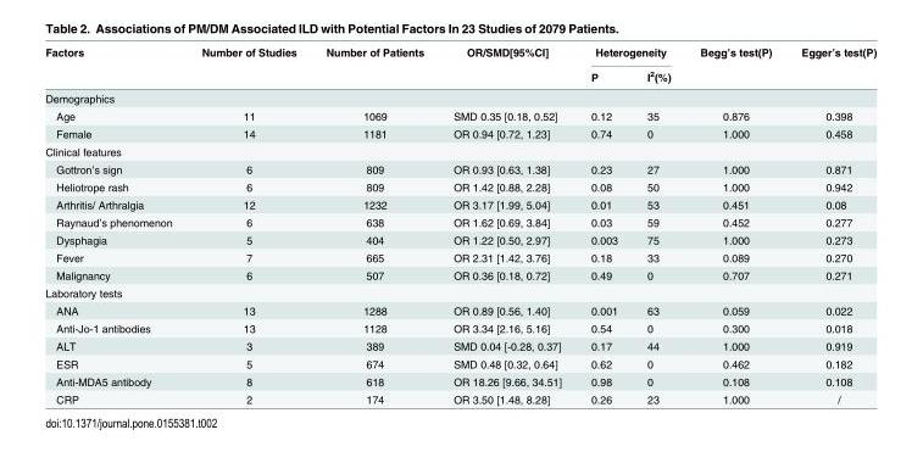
<table><thead><tr><td rowspan="2">Factors</td><td rowspan="2">Number of Studies</td><td rowspan="2">Number of Patients</td><td rowspan="2">OR/SMD[95%CI]</td><td colspan="2">Heterogeneity</td><td rowspan="2">Begg’s test(P)</td><td rowspan="2">Egger’s test(P)</td></tr><tr><td>P</td><td>I<sup>2</sup>(%)</td></tr></thead><tbody><tr><td colspan="8">Demographics</td></tr><tr><td>Age</td><td>11</td><td>1069</td><td>SMD 0.35 [0.18, 0.52]</td><td>0.12</td><td>35</td><td>0.876</td><td>0.398</td></tr><tr><td>Female</td><td>14</td><td>1181</td><td>OR 0.94 [0.72, 1.23]</td><td>0.74</td><td>0</td><td>1.000</td><td>0.458</td></tr><tr><td colspan="8">Clinical features</td></tr><tr><td>Gottron’s sign</td><td>6</td><td>809</td><td>OR 0.93 [0.63, 1.38]</td><td>0.23</td><td>27</td><td>1.000</td><td>0.871</td></tr><tr><td>Heliotrope rash</td><td>6</td><td>809</td><td>OR 1.42 [0.88, 2.28]</td><td>0.08</td><td>50</td><td>1.000</td><td>0.942</td></tr><tr><td>Arthritis/ Arthralgia</td><td>12</td><td>1232</td><td>OR 3.17 [1.99, 5.04]</td><td>0.01</td><td>53</td><td>0.451</td><td>0.08</td></tr><tr><td>Raynaud’s phenomenon</td><td>6</td><td>638</td><td>OR 1.62 [0.69, 3.84]</td><td>0.03</td><td>59</td><td>0.452</td><td>0.277</td></tr><tr><td>Dysphagia</td><td>5</td><td>404</td><td>OR 1.22 [0.50, 2.97]</td><td>0.003</td><td>75</td><td>1.000</td><td>0.273</td></tr><tr><td>Fever</td><td>7</td><td>665</td><td>OR 2.31 [1.42, 3.76]</td><td>0.18</td><td>33</td><td>0.089</td><td>0.270</td></tr><tr><td>Malignancy</td><td>6</td><td>507</td><td>OR 0.36 [0.18, 0.72]</td><td>0.49</td><td>0</td><td>0.707</td><td>0.271</td></tr><tr><td colspan="8">Laboratory tests</td></tr><tr><td>ANA</td><td>13</td><td>1288</td><td>OR 0.89 [0.56, 1.40]</td><td>0.001</td><td>63</td><td>0.059</td><td>0.022</td></tr><tr><td>Anti-Jo-1 antibodies</td><td>13</td><td>1128</td><td>OR 3.34 [2.16, 5.16]</td><td>0.54</td><td>0</td><td>0.300</td><td>0.018</td></tr><tr><td>ALT</td><td>3</td><td>389</td><td>SMD 0.04 [-0.28, 0.37]</td><td>0.17</td><td>44</td><td>1.000</td><td>0.919</td></tr><tr><td>ESR</td><td>5</td><td>674</td><td>SMD 0.48 [0.32, 0.64]</td><td>0.62</td><td>0</td><td>0.462</td><td>0.182</td></tr><tr><td>Anti-MDA5 antibody</td><td>8</td><td>618</td><td>OR 18.26 [9.66, 34.51]</td><td>0.98</td><td>0</td><td>0.108</td><td>0.108</td></tr><tr><td>CRP</td><td>2</td><td>174</td><td>OR 3.50 [1.48, 8.28]</td><td>0.26</td><td>23</td><td>1.000</td><td>/</td></tr></tbody></table>